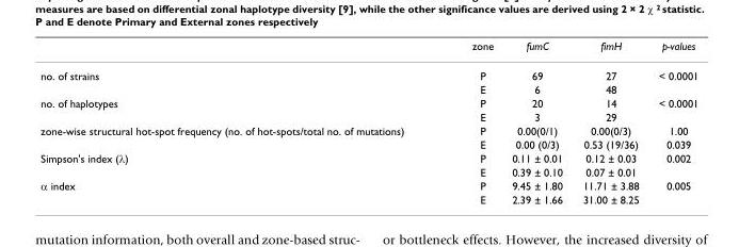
<table><thead><tr><td></td><td>zone</td><td>fumC</td><td>fimH</td><td>p-values</td></tr></thead><tbody><tr><td rowspan="2">no. of strains</td><td>P</td><td>69</td><td>27</td><td>&lt; 0.0001</td></tr><tr><td>E</td><td>6</td><td>48</td><td></td></tr><tr><td rowspan="2">no. of haplotypes</td><td>P</td><td>20</td><td>14</td><td>&lt; 0.0001</td></tr><tr><td>E</td><td>3</td><td>29</td><td></td></tr><tr><td rowspan="2">zone-wise structural hot-spot frequency (no. of hot-spots/total no. of mutations)</td><td>P</td><td>0.00(0/1)</td><td>0.00(0/3)</td><td>1.00</td></tr><tr><td>E</td><td>0.00 (0/3)</td><td>0.53 (19/36)</td><td>0.039</td></tr><tr><td rowspan="2">Simpson&#x27;s index (λ)</td><td>P</td><td>0.11 ± 0.01</td><td>0.12 ± 0.03</td><td>0.002</td></tr><tr><td>E</td><td>0.39 ± 0.10</td><td>0.07 ± 0.01</td><td></td></tr><tr><td rowspan="2">α index</td><td>P</td><td>9.45 ± 1.80</td><td>11.71 ± 3.88</td><td>0.005</td></tr><tr><td>E</td><td>2.39 ± 1.66</td><td>31.00 ± 8.25</td><td></td></tr></tbody></table>